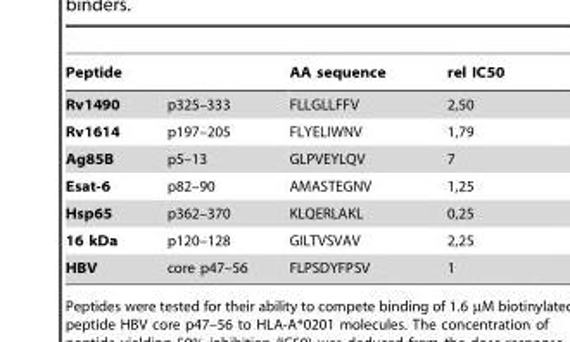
<table><thead><tr><td>Peptide</td><td></td><td>AA sequence</td><td>rel IC50</td></tr></thead><tbody><tr><td>Rv1490</td><td>p325–333</td><td>FLLGLLFFV</td><td>2,50</td></tr><tr><td>Rv1614</td><td>p197–205</td><td>FLYELIWNV</td><td>1,79</td></tr><tr><td>Ag85B</td><td>p5–13</td><td>GLPVEYLQV</td><td>7</td></tr><tr><td>Esat-6</td><td>p82–90</td><td>AMASTEGNV</td><td>1,25</td></tr><tr><td>Hsp65</td><td>p362–370</td><td>KLQERLAKL</td><td>0,25</td></tr><tr><td>16 kDa</td><td>p120–128</td><td>GILTVSVAV</td><td>2,25</td></tr><tr><td>HBV</td><td>core p47–56</td><td>FLPSDYFPSV</td><td>1</td></tr></tbody></table>